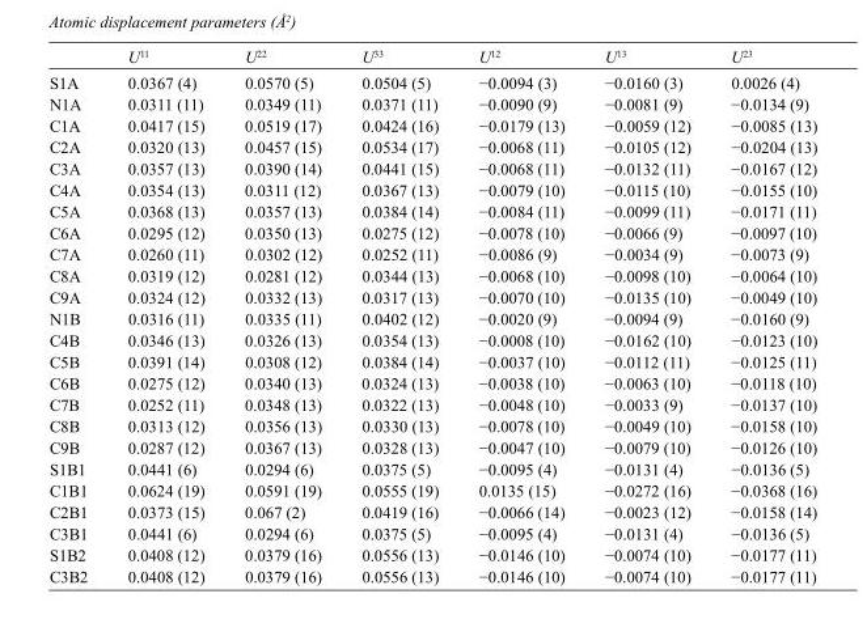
<table><thead><tr><td></td><td>U<sup>11</sup></td><td>U<sup>22</sup></td><td>U<sup>33</sup></td><td>U<sup>12</sup></td><td>U<sup>13</sup></td><td>U<sup>23</sup></td></tr></thead><tbody><tr><td>S1A</td><td>0.0367 (4)</td><td>0.0570 (5)</td><td>0.0504 (5)</td><td>−0.0094 (3)</td><td>−0.0160 (3)</td><td>0.0026 (4)</td></tr><tr><td>N1A</td><td>0.0311 (11)</td><td>0.0349 (11)</td><td>0.0371 (11)</td><td>−0.0090 (9)</td><td>−0.0081 (9)</td><td>−0.0134 (9)</td></tr><tr><td>C1A</td><td>0.0417 (15)</td><td>0.0519 (17)</td><td>0.0424 (16)</td><td>−0.0179 (13)</td><td>−0.0059 (12)</td><td>−0.0085 (13)</td></tr><tr><td>C2A</td><td>0.0320 (13)</td><td>0.0457 (15)</td><td>0.0534 (17)</td><td>−0.0068 (11)</td><td>−0.0105 (12)</td><td>−0.0204 (13)</td></tr><tr><td>C3A</td><td>0.0357 (13)</td><td>0.0390 (14)</td><td>0.0441 (15)</td><td>−0.0068 (11)</td><td>−0.0132 (11)</td><td>−0.0167 (12)</td></tr><tr><td>C4A</td><td>0.0354 (13)</td><td>0.0311 (12)</td><td>0.0367 (13)</td><td>−0.0079 (10)</td><td>−0.0115 (10)</td><td>−0.0155 (10)</td></tr><tr><td>C5A</td><td>0.0368 (13)</td><td>0.0357 (13)</td><td>0.0384 (14)</td><td>−0.0084 (11)</td><td>−0.0099 (11)</td><td>−0.0171 (11)</td></tr><tr><td>C6A</td><td>0.0295 (12)</td><td>0.0350 (13)</td><td>0.0275 (12)</td><td>−0.0078 (10)</td><td>−0.0066 (9)</td><td>−0.0097 (10)</td></tr><tr><td>C7A</td><td>0.0260 (11)</td><td>0.0302 (12)</td><td>0.0252 (11)</td><td>−0.0086 (9)</td><td>−0.0034 (9)</td><td>−0.0073 (9)</td></tr><tr><td>C8A</td><td>0.0319 (12)</td><td>0.0281 (12)</td><td>0.0344 (13)</td><td>−0.0068 (10)</td><td>−0.0098 (10)</td><td>−0.0064 (10)</td></tr><tr><td>C9A</td><td>0.0324 (12)</td><td>0.0332 (13)</td><td>0.0317 (13)</td><td>−0.0070 (10)</td><td>−0.0135 (10)</td><td>−0.0049 (10)</td></tr><tr><td>N1B</td><td>0.0316 (11)</td><td>0.0335 (11)</td><td>0.0402 (12)</td><td>−0.0020 (9)</td><td>−0.0094 (9)</td><td>−0.0160 (9)</td></tr><tr><td>C4B</td><td>0.0346 (13)</td><td>0.0326 (13)</td><td>0.0354 (13)</td><td>−0.0008 (10)</td><td>−0.0162 (10)</td><td>−0.0123 (10)</td></tr><tr><td>C5B</td><td>0.0391 (14)</td><td>0.0308 (12)</td><td>0.0384 (14)</td><td>−0.0037 (10)</td><td>−0.0112 (11)</td><td>−0.0125 (11)</td></tr><tr><td>C6B</td><td>0.0275 (12)</td><td>0.0340 (13)</td><td>0.0324 (13)</td><td>−0.0038 (10)</td><td>−0.0063 (10)</td><td>−0.0118 (10)</td></tr><tr><td>C7B</td><td>0.0252 (11)</td><td>0.0348 (13)</td><td>0.0322 (13)</td><td>−0.0048 (10)</td><td>−0.0033 (9)</td><td>−0.0137 (10)</td></tr><tr><td>C8B</td><td>0.0313 (12)</td><td>0.0356 (13)</td><td>0.0330 (13)</td><td>−0.0078 (10)</td><td>−0.0049 (10)</td><td>−0.0158 (10)</td></tr><tr><td>C9B</td><td>0.0287 (12)</td><td>0.0367 (13)</td><td>0.0328 (13)</td><td>−0.0047 (10)</td><td>−0.0079 (10)</td><td>−0.0126 (10)</td></tr><tr><td>S1B1</td><td>0.0441 (6)</td><td>0.0294 (6)</td><td>0.0375 (5)</td><td>−0.0095 (4)</td><td>−0.0131 (4)</td><td>−0.0136 (5)</td></tr><tr><td>C1B1</td><td>0.0624 (19)</td><td>0.0591 (19)</td><td>0.0555 (19)</td><td>0.0135 (15)</td><td>−0.0272 (16)</td><td>−0.0368 (16)</td></tr><tr><td>C2B1</td><td>0.0373 (15)</td><td>0.067 (2)</td><td>0.0419 (16)</td><td>−0.0066 (14)</td><td>−0.0023 (12)</td><td>−0.0158 (14)</td></tr><tr><td>C3B1</td><td>0.0441 (6)</td><td>0.0294 (6)</td><td>0.0375 (5)</td><td>−0.0095 (4)</td><td>−0.0131 (4)</td><td>−0.0136 (5)</td></tr><tr><td>S1B2</td><td>0.0408 (12)</td><td>0.0379 (16)</td><td>0.0556 (13)</td><td>−0.0146 (10)</td><td>−0.0074 (10)</td><td>−0.0177 (11)</td></tr><tr><td>C3B2</td><td>0.0408 (12)</td><td>0.0379 (16)</td><td>0.0556 (13)</td><td>−0.0146 (10)</td><td>−0.0074 (10)</td><td>−0.0177 (11)</td></tr></tbody></table>